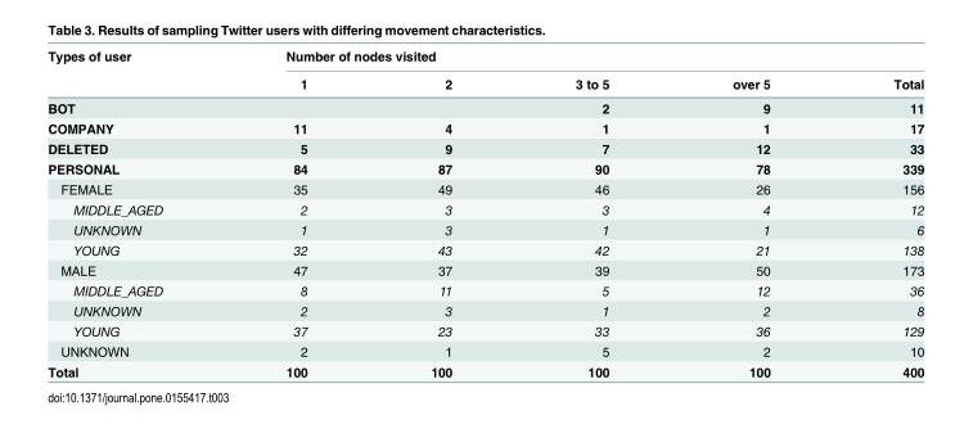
<table><thead><tr><td rowspan="2">Types of user</td><td colspan="5">Number of nodes visited</td></tr><tr><td>1</td><td>2</td><td>3 to 5</td><td>over 5</td><td>Total</td></tr></thead><tbody><tr><td>BOT</td><td></td><td></td><td>2</td><td>9</td><td>11</td></tr><tr><td>COMPANY</td><td>11</td><td>4</td><td>1</td><td>1</td><td>17</td></tr><tr><td>DELETED</td><td>5</td><td>9</td><td>7</td><td>12</td><td>33</td></tr><tr><td>PERSONAL</td><td>84</td><td>87</td><td>90</td><td>78</td><td>339</td></tr><tr><td>FEMALE</td><td>35</td><td>49</td><td>46</td><td>26</td><td>156</td></tr><tr><td>MIDDLE_AGED</td><td>2</td><td>3</td><td>3</td><td>4</td><td>12</td></tr><tr><td>UNKNOWN</td><td>1</td><td>3</td><td>1</td><td>1</td><td>6</td></tr><tr><td>YOUNG</td><td>32</td><td>43</td><td>42</td><td>21</td><td>138</td></tr><tr><td>MALE</td><td>47</td><td>37</td><td>39</td><td>50</td><td>173</td></tr><tr><td>MIDDLE_AGED</td><td>8</td><td>11</td><td>5</td><td>12</td><td>36</td></tr><tr><td>UNKNOWN</td><td>2</td><td>3</td><td>1</td><td>2</td><td>8</td></tr><tr><td>YOUNG</td><td>37</td><td>23</td><td>33</td><td>36</td><td>129</td></tr><tr><td>UNKNOWN</td><td>2</td><td>1</td><td>5</td><td>2</td><td>10</td></tr><tr><td>Total</td><td>100</td><td>100</td><td>100</td><td>100</td><td>400</td></tr></tbody></table>